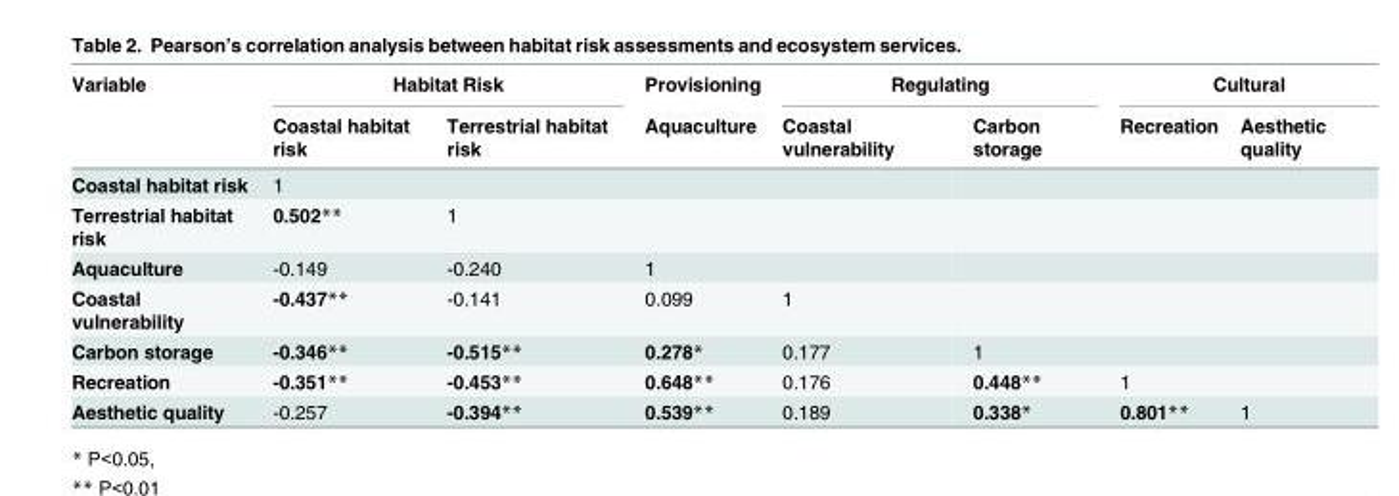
<table><thead><tr><td rowspan="2">Variable</td><td colspan="2">Habitat Risk</td><td rowspan="2">Provisioning Aquaculture</td><td colspan="2">Regulating</td><td colspan="2">Cultural</td></tr><tr><td>Coastal habitat risk</td><td>Terrestrial habitat risk</td><td>Coastal vulnerability</td><td>Carbon storage</td><td>Recreation</td><td>Aesthetic quality</td></tr></thead><tbody><tr><td>Coastal habitat risk</td><td>1</td><td></td><td></td><td></td><td></td><td></td><td></td></tr><tr><td>Terrestrial habitat risk</td><td>0.502**</td><td>1</td><td></td><td></td><td></td><td></td><td></td></tr><tr><td>Aquaculture</td><td>-0.149</td><td>-0.240</td><td>1</td><td></td><td></td><td></td><td></td></tr><tr><td>Coastal vulnerability</td><td>-0.437**</td><td>-0.141</td><td>0.099</td><td>1</td><td></td><td></td><td></td></tr><tr><td>Carbon storage</td><td>-0.346**</td><td>-0.515**</td><td>0.278*</td><td>0.177</td><td>1</td><td></td><td></td></tr><tr><td>Recreation</td><td>-0.351**</td><td>-0.453**</td><td>0.648**</td><td>0.176</td><td>0.448**</td><td>1</td><td></td></tr><tr><td>Aesthetic quality</td><td>-0.257</td><td>-0.394**</td><td>0.539**</td><td>0.189</td><td>0.338*</td><td>0.801**</td><td>1</td></tr></tbody></table>